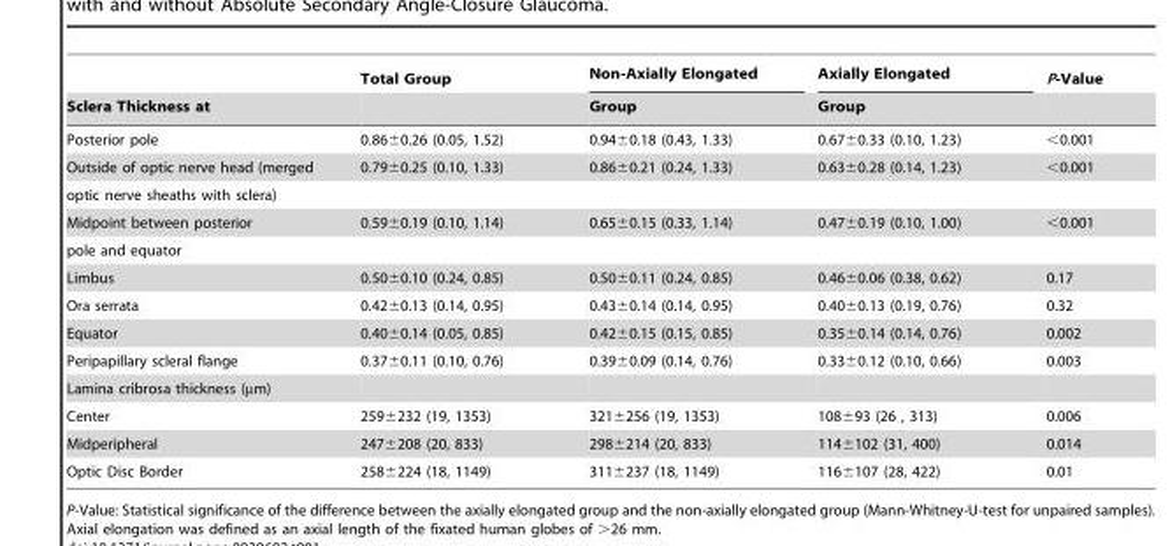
<table><thead><tr><td rowspan="2">Sclera Thickness at</td><td rowspan="2">Total Group</td><td rowspan="2">Non-Axially Elongated Group</td><td rowspan="2">Axially Elongated Group</td><td rowspan="2">P-Value</td></tr><tr></tr></thead><tbody><tr><td>Posterior pole</td><td>0.86±0.26 (0.05, 1.52)</td><td>0.94±0.18 (0.43, 1.33)</td><td>0.67±0.33 (0.10, 1.23)</td><td>&lt;0.001</td></tr><tr><td>Outside of optic nerve head (merged</td><td>0.79±0.25 (0.10, 1.33)</td><td>0.86±0.21 (0.24, 1.33)</td><td>0.63±0.28 (0.14, 1.23)</td><td>&lt;0.001</td></tr><tr><td colspan="5">optic nerve sheaths with sclera)</td></tr><tr><td>Midpoint between posterior</td><td>0.59±0.19 (0.10, 1.14)</td><td>0.65±0.15 (0.33, 1.14)</td><td>0.47±0.19 (0.10, 1.00)</td><td>&lt;0.001</td></tr><tr><td colspan="5">pole and equator</td></tr><tr><td>Limbus</td><td>0.50±0.10 (0.24, 0.85)</td><td>0.50±0.11 (0.24, 0.85)</td><td>0.46±0.06 (0.38, 0.62)</td><td>0.17</td></tr><tr><td>Ora serrata</td><td>0.42±0.13 (0.14, 0.95)</td><td>0.43±0.14 (0.14, 0.95)</td><td>0.40±0.13 (0.19, 0.76)</td><td>0.32</td></tr><tr><td>Equator</td><td>0.40±0.14 (0.05, 0.85)</td><td>0.42±0.15 (0.15, 0.85)</td><td>0.35±0.14 (0.14, 0.76)</td><td>0.002</td></tr><tr><td>Peripapillary scleral flange</td><td>0.37±0.11 (0.10, 0.76)</td><td>0.39±0.09 (0.14, 0.76)</td><td>0.33±0.12 (0.10, 0.66)</td><td>0.003</td></tr><tr><td colspan="5">Lamina cribrosa thickness (µm)</td></tr><tr><td>Center</td><td>259±232 (19, 1353)</td><td>321±256 (19, 1353)</td><td>108±93 (26 , 313)</td><td>0.006</td></tr><tr><td>Midperipheral</td><td>247±208 (20, 833)</td><td>298±214 (20, 833)</td><td>114±102 (31, 400)</td><td>0.014</td></tr><tr><td>Optic Disc Border</td><td>258±224 (18, 1149)</td><td>311±237 (18, 1149)</td><td>116±107 (28, 422)</td><td>0.01</td></tr></tbody></table>